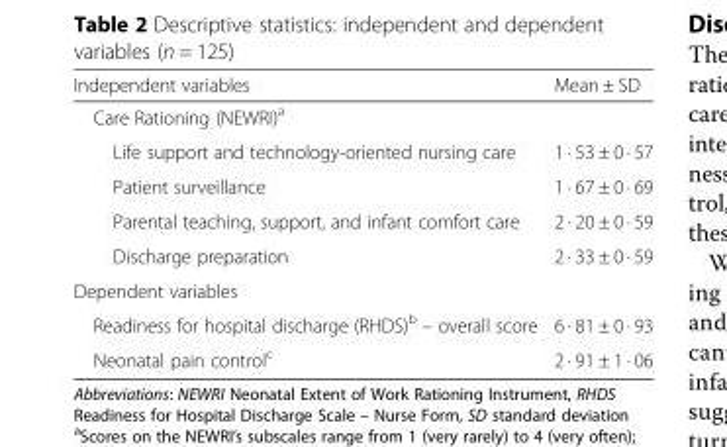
<table><thead><tr><td>Independent variables</td><td>Mean ± SD</td></tr></thead><tbody><tr><td colspan="2">Care Rationing (NEWRI)<sup>a</sup></td></tr><tr><td>Life support and technology-oriented nursing care</td><td>1 · 53 ± 0 · 57</td></tr><tr><td>Patient surveillance</td><td>1 · 67 ± 0 · 69</td></tr><tr><td>Parental teaching, support, and infant comfort care</td><td>2 · 20 ± 0 · 59</td></tr><tr><td>Discharge preparation</td><td>2 · 33 ± 0 · 59</td></tr><tr><td colspan="2">Dependent variables</td></tr><tr><td>Readiness for hospital discharge (RHDS)<sup>b</sup> – overall score</td><td>6 · 81 ± 0 · 93</td></tr><tr><td>Neonatal pain control<sup>c</sup></td><td>2 · 91 ± 1 · 06</td></tr></tbody></table>